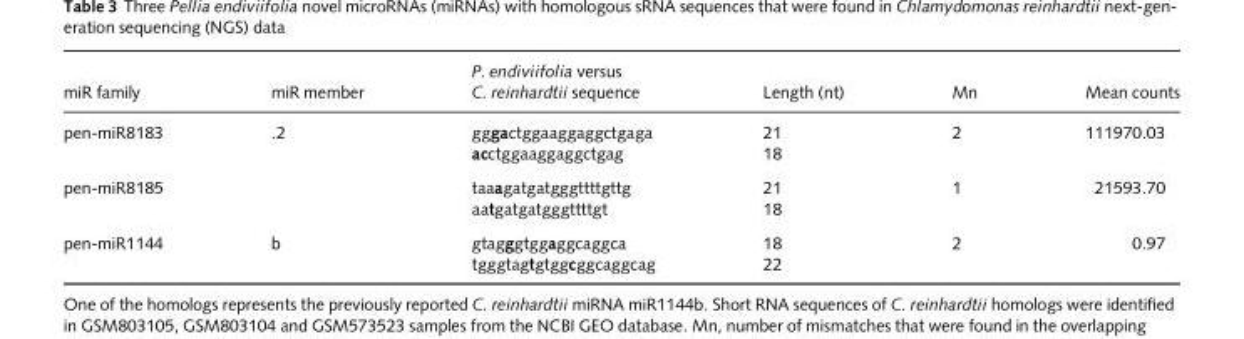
<table><thead><tr><td>miR family</td><td>miR member</td><td>P. endiviifolia versus C. reinhardtii sequence</td><td>Length (nt)</td><td>Mn</td><td>Mean counts</td></tr></thead><tbody><tr><td rowspan="2">pen-miR8183</td><td rowspan="2">.2</td><td>gggactggaaggaggctgaga</td><td>21</td><td rowspan="2">2</td><td rowspan="2">111970.03</td></tr><tr><td>acctggaaggaggctgag</td><td>18</td></tr><tr><td rowspan="2">pen-miR8185</td><td></td><td>taaagatgatgggttttgttg</td><td>21</td><td rowspan="2">1</td><td rowspan="2">21593.70</td></tr><tr><td></td><td>aatgatgatgggttttgt</td><td>18</td></tr><tr><td rowspan="2">pen-miR1144</td><td rowspan="2">b</td><td>gtagggtggaggcaggca</td><td>18</td><td rowspan="2">2</td><td rowspan="2">0.97</td></tr><tr><td>tgggtagtgtggcggcaggcag</td><td>22</td></tr></tbody></table>